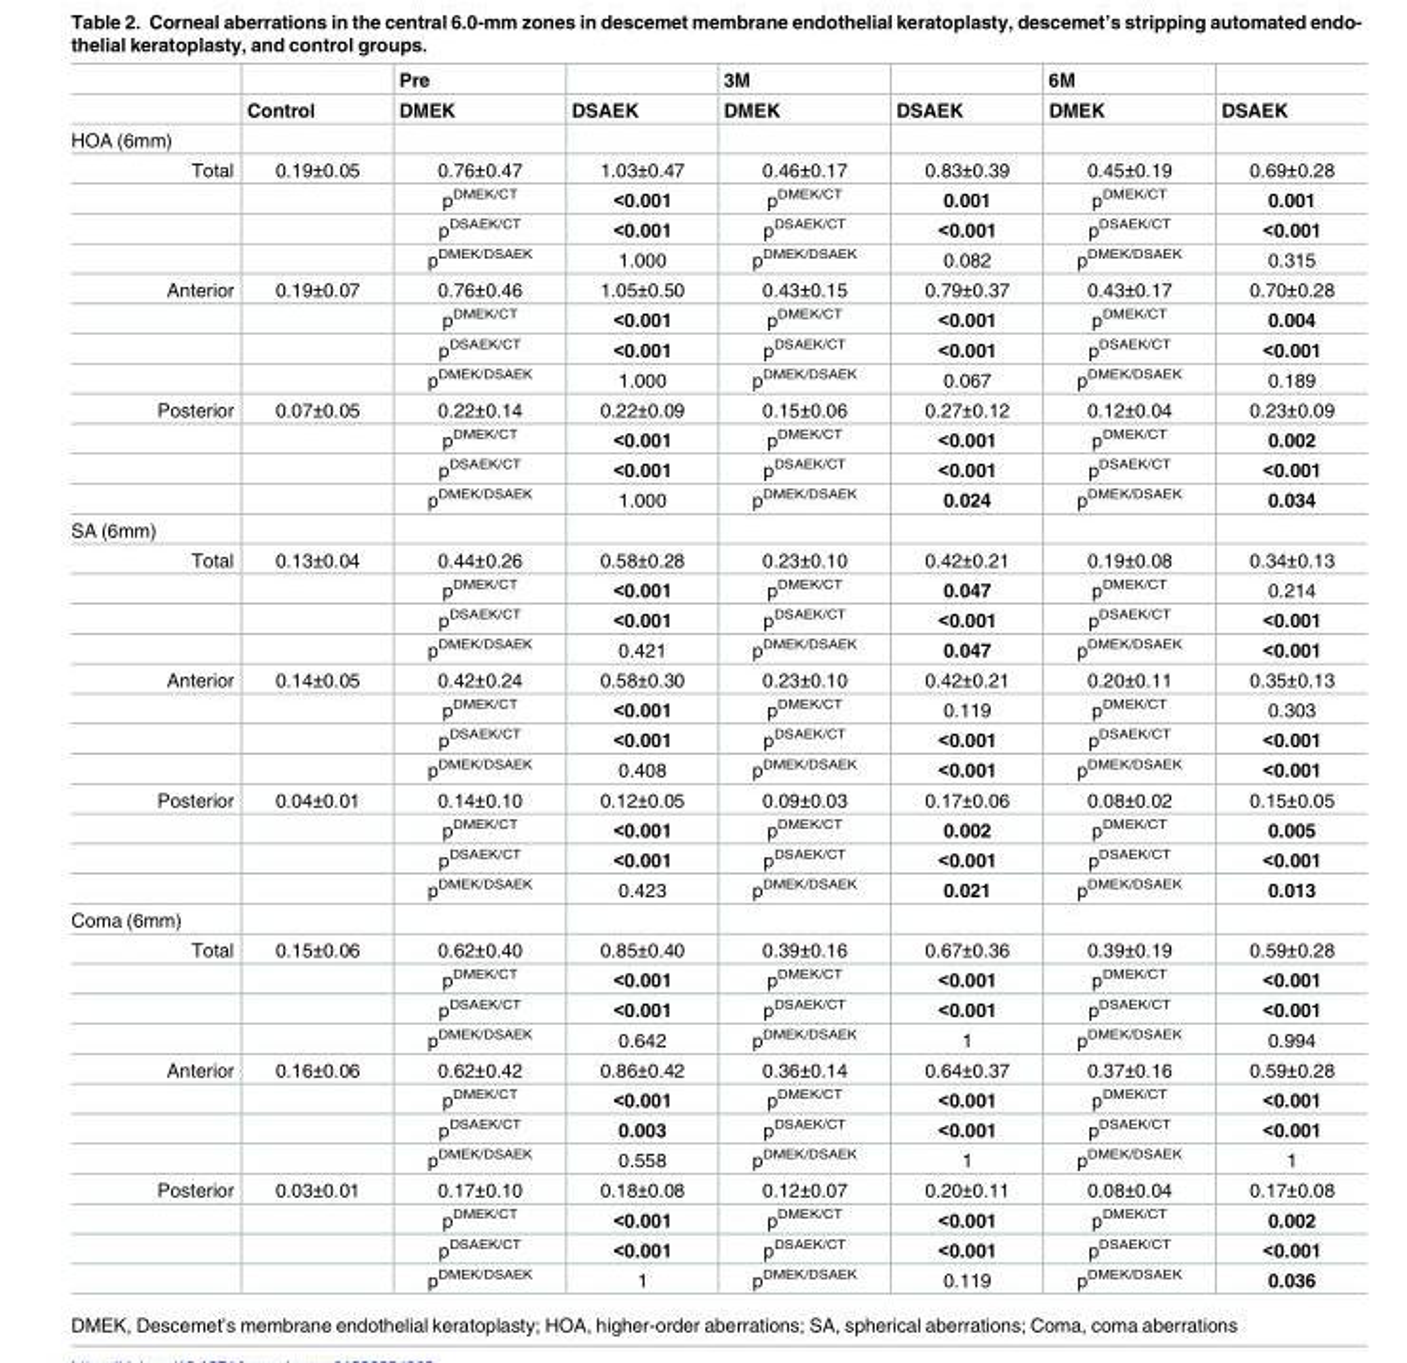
<table><thead><tr><td rowspan="2"></td><td rowspan="2">Control</td><td rowspan="2">Pre DMEK</td><td rowspan="2">DSAEK</td><td rowspan="2">3M DMEK</td><td rowspan="2">DSAEK</td><td rowspan="2">6M DMEK</td><td rowspan="2">DSAEK</td></tr><tr></tr></thead><tbody><tr><td colspan="8">HOA (6mm)</td></tr><tr><td rowspan="4">Total</td><td>0.19±0.05</td><td>0.76±0.47</td><td>1.03±0.47</td><td>0.46±0.17</td><td>0.83±0.39</td><td>0.45±0.19</td><td>0.69±0.28</td></tr><tr><td></td><td>p<sup>DMEK/CT</sup></td><td>&lt;0.001</td><td>p<sup>DMEK/CT</sup></td><td>0.001</td><td>p<sup>DMEK/CT</sup></td><td>0.001</td></tr><tr><td></td><td>p<sup>DSAEK/CT</sup></td><td>&lt;0.001</td><td>p<sup>DSAEK/CT</sup></td><td>&lt;0.001</td><td>p<sup>DSAEK/CT</sup></td><td>&lt;0.001</td></tr><tr><td></td><td>p<sup>DMEK/DSAEK</sup></td><td>1.000</td><td>p<sup>DMEK/DSAEK</sup></td><td>0.082</td><td>p<sup>DMEK/DSAEK</sup></td><td>0.315</td></tr><tr><td rowspan="4">Anterior</td><td>0.19±0.07</td><td>0.76±0.46</td><td>1.05±0.50</td><td>0.43±0.15</td><td>0.79±0.37</td><td>0.43±0.17</td><td>0.70±0.28</td></tr><tr><td></td><td>p<sup>DMEK/CT</sup></td><td>&lt;0.001</td><td>p<sup>DMEK/CT</sup></td><td>&lt;0.001</td><td>p<sup>DMEK/CT</sup></td><td>0.004</td></tr><tr><td></td><td>p<sup>DSAEK/CT</sup></td><td>&lt;0.001</td><td>p<sup>DSAEK/CT</sup></td><td>&lt;0.001</td><td>p<sup>DSAEK/CT</sup></td><td>&lt;0.001</td></tr><tr><td></td><td>p<sup>DMEK/DSAEK</sup></td><td>1.000</td><td>p<sup>DMEK/DSAEK</sup></td><td>0.067</td><td>p<sup>DMEK/DSAEK</sup></td><td>0.189</td></tr><tr><td rowspan="4">Posterior</td><td>0.07±0.05</td><td>0.22±0.14</td><td>0.22±0.09</td><td>0.15±0.06</td><td>0.27±0.12</td><td>0.12±0.04</td><td>0.23±0.09</td></tr><tr><td></td><td>p<sup>DMEK/CT</sup></td><td>&lt;0.001</td><td>p<sup>DMEK/CT</sup></td><td>&lt;0.001</td><td>p<sup>DMEK/CT</sup></td><td>0.002</td></tr><tr><td></td><td>p<sup>DSAEK/CT</sup></td><td>&lt;0.001</td><td>p<sup>DSAEK/CT</sup></td><td>&lt;0.001</td><td>p<sup>DSAEK/CT</sup></td><td>&lt;0.001</td></tr><tr><td></td><td>p<sup>DMEK/DSAEK</sup></td><td>1.000</td><td>p<sup>DMEK/DSAEK</sup></td><td>0.024</td><td>p<sup>DMEK/DSAEK</sup></td><td>0.034</td></tr><tr><td colspan="8">SA (6mm)</td></tr><tr><td rowspan="4">Total</td><td>0.13±0.04</td><td>0.44±0.26</td><td>0.58±0.28</td><td>0.23±0.10</td><td>0.42±0.21</td><td>0.19±0.08</td><td>0.34±0.13</td></tr><tr><td></td><td>p<sup>DMEK/CT</sup></td><td>&lt;0.001</td><td>p<sup>DMEK/CT</sup></td><td>0.047</td><td>p<sup>DMEK/CT</sup></td><td>0.214</td></tr><tr><td></td><td>p<sup>DSAEK/CT</sup></td><td>&lt;0.001</td><td>p<sup>DSAEK/CT</sup></td><td>&lt;0.001</td><td>p<sup>DSAEK/CT</sup></td><td>&lt;0.001</td></tr><tr><td></td><td>p<sup>DMEK/DSAEK</sup></td><td>0.421</td><td>p<sup>DMEK/DSAEK</sup></td><td>0.047</td><td>p<sup>DMEK/DSAEK</sup></td><td>&lt;0.001</td></tr><tr><td rowspan="4">Anterior</td><td>0.14±0.05</td><td>0.42±0.24</td><td>0.58±0.30</td><td>0.23±0.10</td><td>0.42±0.21</td><td>0.20±0.11</td><td>0.35±0.13</td></tr><tr><td></td><td>p<sup>DMEK/CT</sup></td><td>&lt;0.001</td><td>p<sup>DMEK/CT</sup></td><td>0.119</td><td>p<sup>DMEK/CT</sup></td><td>0.303</td></tr><tr><td></td><td>p<sup>DSAEK/CT</sup></td><td>&lt;0.001</td><td>p<sup>DSAEK/CT</sup></td><td>&lt;0.001</td><td>p<sup>DSAEK/CT</sup></td><td>&lt;0.001</td></tr><tr><td></td><td>p<sup>DMEK/DSAEK</sup></td><td>0.408</td><td>p<sup>DMEK/DSAEK</sup></td><td>&lt;0.001</td><td>p<sup>DMEK/DSAEK</sup></td><td>&lt;0.001</td></tr><tr><td rowspan="4">Posterior</td><td>0.04±0.01</td><td>0.14±0.10</td><td>0.12±0.05</td><td>0.09±0.03</td><td>0.17±0.06</td><td>0.08±0.02</td><td>0.15±0.05</td></tr><tr><td></td><td>p<sup>DMEK/CT</sup></td><td>&lt;0.001</td><td>p<sup>DMEK/CT</sup></td><td>0.002</td><td>p<sup>DMEK/CT</sup></td><td>0.005</td></tr><tr><td></td><td>p<sup>DSAEK/CT</sup></td><td>&lt;0.001</td><td>p<sup>DSAEK/CT</sup></td><td>&lt;0.001</td><td>p<sup>DSAEK/CT</sup></td><td>&lt;0.001</td></tr><tr><td></td><td>p<sup>DMEK/DSAEK</sup></td><td>0.423</td><td>p<sup>DMEK/DSAEK</sup></td><td>0.021</td><td>p<sup>DMEK/DSAEK</sup></td><td>0.013</td></tr><tr><td colspan="8">Coma (6mm)</td></tr><tr><td rowspan="4">Total</td><td>0.15±0.06</td><td>0.62±0.40</td><td>0.85±0.40</td><td>0.39±0.16</td><td>0.67±0.36</td><td>0.39±0.19</td><td>0.59±0.28</td></tr><tr><td></td><td>p<sup>DMEK/CT</sup></td><td>&lt;0.001</td><td>p<sup>DMEK/CT</sup></td><td>&lt;0.001</td><td>p<sup>DMEK/CT</sup></td><td>&lt;0.001</td></tr><tr><td></td><td>p<sup>DSAEK/CT</sup></td><td>&lt;0.001</td><td>p<sup>DSAEK/CT</sup></td><td>&lt;0.001</td><td>p<sup>DSAEK/CT</sup></td><td>&lt;0.001</td></tr><tr><td></td><td>p<sup>DMEK/DSAEK</sup></td><td>0.642</td><td>p<sup>DMEK/DSAEK</sup></td><td>1</td><td>p<sup>DMEK/DSAEK</sup></td><td>0.994</td></tr><tr><td rowspan="4">Anterior</td><td>0.16±0.06</td><td>0.62±0.42</td><td>0.86±0.42</td><td>0.36±0.14</td><td>0.64±0.37</td><td>0.37±0.16</td><td>0.59±0.28</td></tr><tr><td></td><td>p<sup>DMEK/CT</sup></td><td>&lt;0.001</td><td>p<sup>DMEK/CT</sup></td><td>&lt;0.001</td><td>p<sup>DMEK/CT</sup></td><td>&lt;0.001</td></tr><tr><td></td><td>p<sup>DSAEK/CT</sup></td><td>0.003</td><td>p<sup>DSAEK/CT</sup></td><td>&lt;0.001</td><td>p<sup>DSAEK/CT</sup></td><td>&lt;0.001</td></tr><tr><td></td><td>p<sup>DMEK/DSAEK</sup></td><td>0.558</td><td>p<sup>DMEK/DSAEK</sup></td><td>1</td><td>p<sup>DMEK/DSAEK</sup></td><td>1</td></tr><tr><td rowspan="4">Posterior</td><td>0.03±0.01</td><td>0.17±0.10</td><td>0.18±0.08</td><td>0.12±0.07</td><td>0.20±0.11</td><td>0.08±0.04</td><td>0.17±0.08</td></tr><tr><td></td><td>p<sup>DMEK/CT</sup></td><td>&lt;0.001</td><td>p<sup>DMEK/CT</sup></td><td>&lt;0.001</td><td>p<sup>DMEK/CT</sup></td><td>0.002</td></tr><tr><td></td><td>p<sup>DSAEK/CT</sup></td><td>&lt;0.001</td><td>p<sup>DSAEK/CT</sup></td><td>&lt;0.001</td><td>p<sup>DSAEK/CT</sup></td><td>&lt;0.001</td></tr><tr><td></td><td>p<sup>DMEK/DSAEK</sup></td><td>1</td><td>p<sup>DMEK/DSAEK</sup></td><td>0.119</td><td>p<sup>DMEK/DSAEK</sup></td><td>0.036</td></tr></tbody></table>